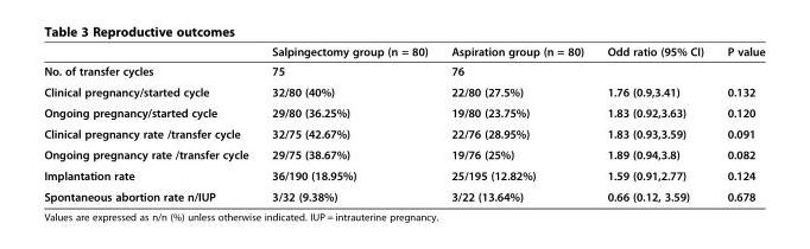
<table><thead><tr><td></td><td>Salpingectomy group (n = 80)</td><td>Aspiration group (n = 80)</td><td>Odd ratio (95% CI)</td><td>P value</td></tr></thead><tbody><tr><td>No. of transfer cycles</td><td>75</td><td>76</td><td></td><td></td></tr><tr><td>Clinical pregnancy/started cycle</td><td>32/80 (40%)</td><td>22/80 (27.5%)</td><td>1.76 (0.9,3.41)</td><td>0.132</td></tr><tr><td>Ongoing pregnancy/started cycle</td><td>29/80 (36.25%)</td><td>19/80 (23.75%)</td><td>1.83 (0.92,3.63)</td><td>0.120</td></tr><tr><td>Clinical pregnancy rate /transfer cycle</td><td>32/75 (42.67%)</td><td>22/76 (28.95%)</td><td>1.83 (0.93,3.59)</td><td>0.091</td></tr><tr><td>Ongoing pregnancy rate /transfer cycle</td><td>29/75 (38.67%)</td><td>19/76 (25%)</td><td>1.89 (0.94,3.8)</td><td>0.082</td></tr><tr><td>Implantation rate</td><td>36/190 (18.95%)</td><td>25/195 (12.82%)</td><td>1.59 (0.91,2.77)</td><td>0.124</td></tr><tr><td>Spontaneous abortion rate n/IUP</td><td>3/32 (9.38%)</td><td>3/22 (13.64%)</td><td>0.66 (0.12, 3.59)</td><td>0.678</td></tr></tbody></table>